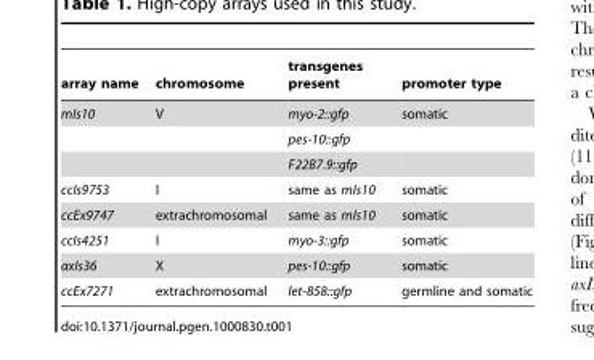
<table><thead><tr><td>array name</td><td>chromosome</td><td>transgenes present</td><td>promoter type</td></tr></thead><tbody><tr><td rowspan="3">mIs10</td><td>V</td><td>myo-2::gfp</td><td>somatic</td></tr><tr><td></td><td>pes-10::gfp</td><td></td></tr><tr><td></td><td>F22B7.9::gfp</td><td></td></tr><tr><td>ccIs9753</td><td>I</td><td>same as mIs10</td><td>somatic</td></tr><tr><td>ccEx9747</td><td>extrachromosomal</td><td>same as mIs10</td><td>somatic</td></tr><tr><td>ccIs4251</td><td>I</td><td>myo-3::gfp</td><td>somatic</td></tr><tr><td>axIs36</td><td>X</td><td>pes-10::gfp</td><td>somatic</td></tr><tr><td>ccEx7271</td><td>extrachromosomal</td><td>let-858::gfp</td><td>germline and somatic</td></tr></tbody></table>